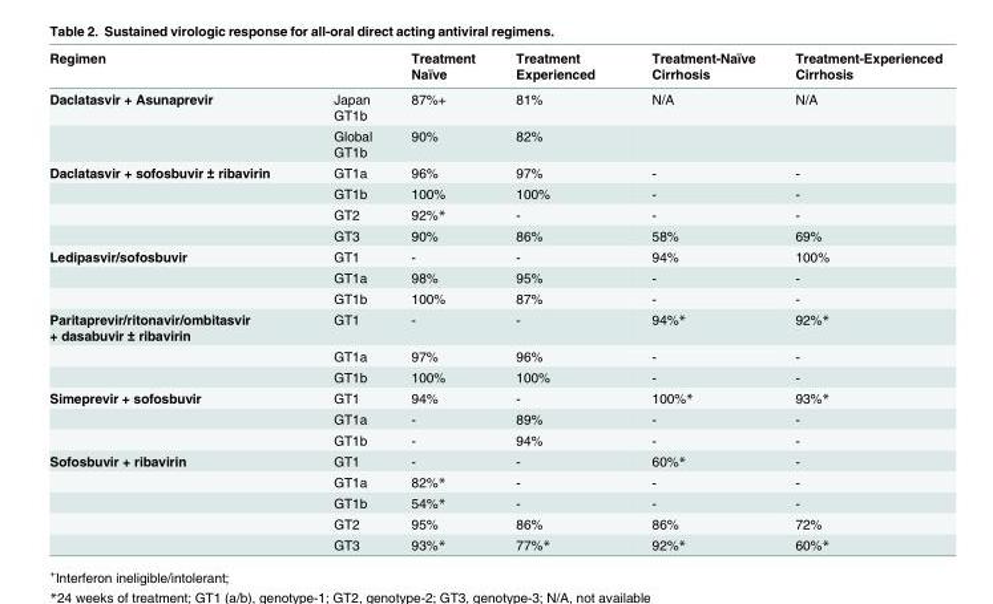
<table><thead><tr><td>Regimen</td><td></td><td>Treatment Naïve</td><td>Treatment Experienced</td><td>Treatment-Naïve Cirrhosis</td><td>Treatment-Experienced Cirrhosis</td></tr></thead><tbody><tr><td rowspan="2">Daclatasvir + Asunaprevir</td><td>Japan GT1b</td><td>87%+</td><td>81%</td><td>N/A</td><td>N/A</td></tr><tr><td>Global GT1b</td><td>90%</td><td>82%</td><td></td><td></td></tr><tr><td rowspan="4">Daclatasvir + sofosbuvir ± ribavirin</td><td>GT1a</td><td>96%</td><td>97%</td><td>-</td><td>-</td></tr><tr><td>GT1b</td><td>100%</td><td>100%</td><td>-</td><td>-</td></tr><tr><td>GT2</td><td>92%*</td><td>-</td><td>-</td><td>-</td></tr><tr><td>GT3</td><td>90%</td><td>86%</td><td>58%</td><td>69%</td></tr><tr><td rowspan="3">Ledipasvir/sofosbuvir</td><td>GT1</td><td>-</td><td>-</td><td>94%</td><td>100%</td></tr><tr><td>GT1a</td><td>98%</td><td>95%</td><td>-</td><td>-</td></tr><tr><td>GT1b</td><td>100%</td><td>87%</td><td>-</td><td>-</td></tr><tr><td rowspan="3">Paritaprevir/ritonavir/ombitasvir + dasabuvir ± ribavirin</td><td>GT1</td><td>-</td><td>-</td><td>94%*</td><td>92%*</td></tr><tr><td>GT1a</td><td>97%</td><td>96%</td><td>-</td><td>-</td></tr><tr><td>GT1b</td><td>100%</td><td>100%</td><td>-</td><td>-</td></tr><tr><td rowspan="3">Simeprevir + sofosbuvir</td><td>GT1</td><td>94%</td><td>-</td><td>100%*</td><td>93%*</td></tr><tr><td>GT1a</td><td>-</td><td>89%</td><td>-</td><td>-</td></tr><tr><td>GT1b</td><td>-</td><td>94%</td><td>-</td><td>-</td></tr><tr><td rowspan="5">Sofosbuvir + ribavirin</td><td>GT1</td><td>-</td><td>-</td><td>60%*</td><td>-</td></tr><tr><td>GT1a</td><td>82%*</td><td>-</td><td>-</td><td>-</td></tr><tr><td>GT1b</td><td>54%*</td><td>-</td><td>-</td><td>-</td></tr><tr><td>GT2</td><td>95%</td><td>86%</td><td>86%</td><td>72%</td></tr><tr><td>GT3</td><td>93%*</td><td>77%*</td><td>92%*</td><td>60%*</td></tr></tbody></table>